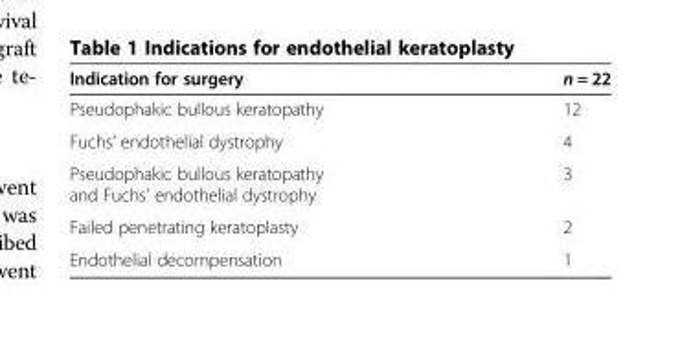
<table><thead><tr><td>Indication for surgery</td><td>n = 22</td></tr></thead><tbody><tr><td>Pseudophakic bullous keratopathy</td><td>12</td></tr><tr><td>Fuchs’ endothelial dystrophy</td><td>4</td></tr><tr><td>Pseudophakic bullous keratopathy and Fuchs’ endothelial dystrophy</td><td>3</td></tr><tr><td>Failed penetrating keratoplasty</td><td>2</td></tr><tr><td>Endothelial decompensation</td><td>1</td></tr></tbody></table>